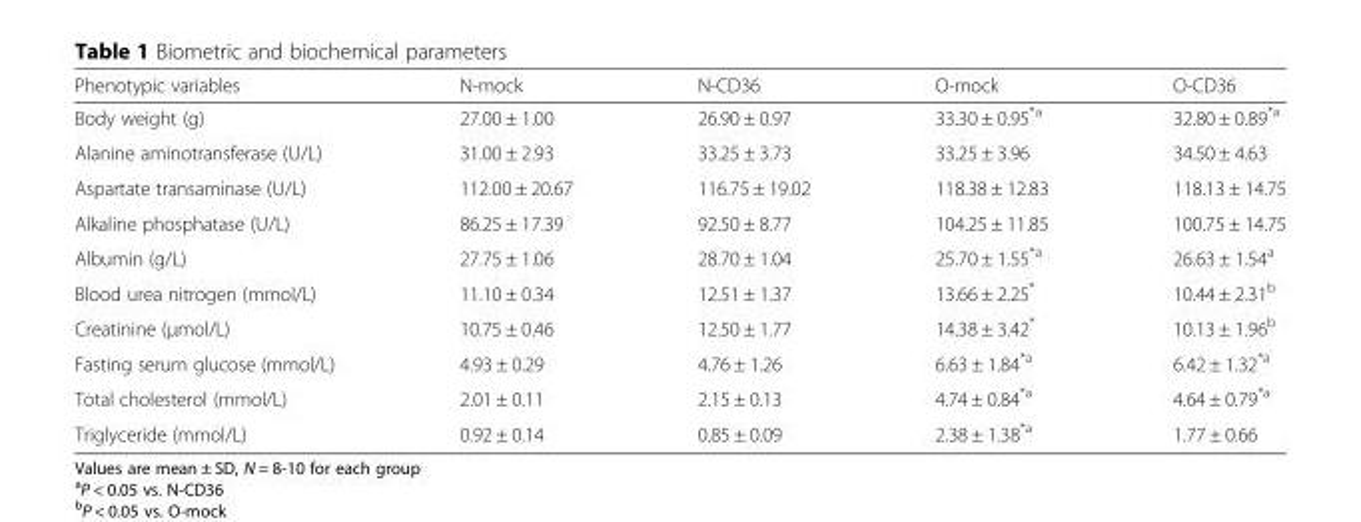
<table><thead><tr><td>Phenotypic variables</td><td>N-mock</td><td>N-CD36</td><td>O-mock</td><td>O-CD36</td></tr></thead><tbody><tr><td>Body weight (g)</td><td>27.00 ± 1.00</td><td>26.90 ± 0.97</td><td>33.30 ± 0.95<sup>*a</sup></td><td>32.80 ± 0.89<sup>*a</sup></td></tr><tr><td>Alanine aminotransferase (U/L)</td><td>31.00 ± 2.93</td><td>33.25 ± 3.73</td><td>33.25 ± 3.96</td><td>34.50 ± 4.63</td></tr><tr><td>Aspartate transaminase (U/L)</td><td>112.00 ± 20.67</td><td>116.75 ± 19.02</td><td>118.38 ± 12.83</td><td>118.13 ± 14.75</td></tr><tr><td>Alkaline phosphatase (U/L)</td><td>86.25 ± 17.39</td><td>92.50 ± 8.77</td><td>104.25 ± 11.85</td><td>100.75 ± 14.75</td></tr><tr><td>Albumin (g/L)</td><td>27.75 ± 1.06</td><td>28.70 ± 1.04</td><td>25.70 ± 1.55<sup>*a</sup></td><td>26.63 ± 1.54<sup>a</sup></td></tr><tr><td>Blood urea nitrogen (mmol/L)</td><td>11.10 ± 0.34</td><td>12.51 ± 1.37</td><td>13.66 ± 2.25*</td><td>10.44 ± 2.31<sup>b</sup></td></tr><tr><td>Creatinine (μmol/L)</td><td>10.75 ± 0.46</td><td>12.50 ± 1.77</td><td>14.38 ± 3.42*</td><td>10.13 ± 1.96<sup>b</sup></td></tr><tr><td>Fasting serum glucose (mmol/L)</td><td>4.93 ± 0.29</td><td>4.76 ± 1.26</td><td>6.63 ± 1.84<sup>*a</sup></td><td>6.42 ± 1.32<sup>*a</sup></td></tr><tr><td>Total cholesterol (mmol/L)</td><td>2.01 ± 0.11</td><td>2.15 ± 0.13</td><td>4.74 ± 0.84<sup>*a</sup></td><td>4.64 ± 0.79<sup>*a</sup></td></tr><tr><td>Triglyceride (mmol/L)</td><td>0.92 ± 0.14</td><td>0.85 ± 0.09</td><td>2.38 ± 1.38<sup>*a</sup></td><td>1.77 ± 0.66</td></tr></tbody></table>